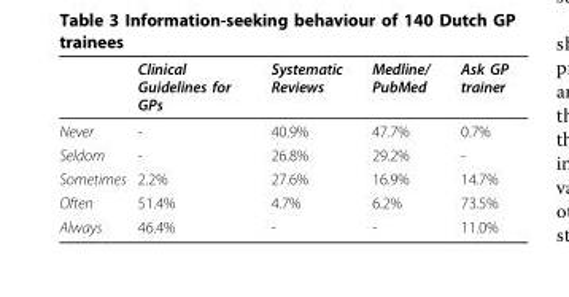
<table><thead><tr><td></td><td>Clinical Guidelines for GPs</td><td>Systematic Reviews</td><td>Medline/ PubMed</td><td>Ask GP trainer</td></tr></thead><tbody><tr><td>Never</td><td>-</td><td>40.9%</td><td>47.7%</td><td>0.7%</td></tr><tr><td>Seldom</td><td>-</td><td>26.8%</td><td>29.2%</td><td>-</td></tr><tr><td>Sometimes</td><td>2.2%</td><td>27.6%</td><td>16.9%</td><td>14.7%</td></tr><tr><td>Often</td><td>51.4%</td><td>4.7%</td><td>6.2%</td><td>73.5%</td></tr><tr><td>Always</td><td>46.4%</td><td>-</td><td>-</td><td>11.0%</td></tr></tbody></table>